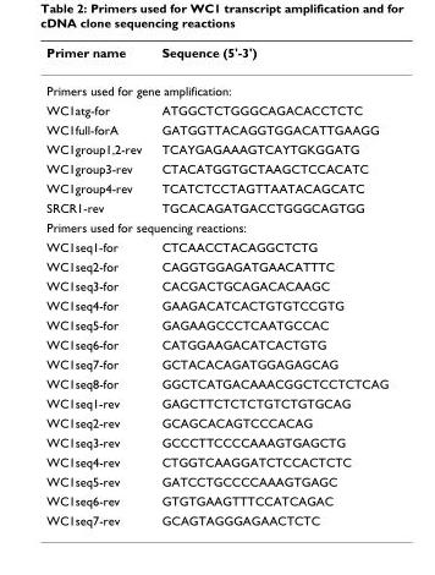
<table><thead><tr><td>Primer name</td><td>Sequence (5&#x27;-3&#x27;)</td></tr></thead><tbody><tr><td colspan="2">Primers used for gene amplification:</td></tr><tr><td>WC1atg-for</td><td>ATGGCTCTGGGCAGACACCTCTC</td></tr><tr><td>WC1full-forA</td><td>GATGGTTACAGGTGGACATTGAAGG</td></tr><tr><td>WC1group1,2-rev</td><td>TCAYGAGAAAGTCAYTGKGGATG</td></tr><tr><td>WC1group3-rev</td><td>CTACATGGTGCTAAGCTCCACATC</td></tr><tr><td>WC1group4-rev</td><td>TCATCTCCTAGTTAATACAGCATC</td></tr><tr><td>SRCR1-rev</td><td>TGCACAGATGACCTGGGCAGTGG</td></tr><tr><td colspan="2">Primers used for sequencing reactions:</td></tr><tr><td>WC1seq1-for</td><td>CTCAACCTACAGGCTCTG</td></tr><tr><td>WC1seq2-for</td><td>CAGGTGGAGATGAACATTTC</td></tr><tr><td>WC1seq3-for</td><td>CACGACTGCAGACACAAGC</td></tr><tr><td>WC1seq4-for</td><td>GAAGACATCACTGTGTCCGTG</td></tr><tr><td>WC1seq5-for</td><td>GAGAAGCCCTCAATGCCAC</td></tr><tr><td>WC1seq6-for</td><td>CATGGAAGACATCACTGTG</td></tr><tr><td>WC1seq7-for</td><td>GCTACACAGATGGAGAGCAG</td></tr><tr><td>WC1seq8-for</td><td>GGCTCATGACAAACGGCTCCTCTCAG</td></tr><tr><td>WC1seq1-rev</td><td>GAGCTTCTCTCTGTCTGTGCAG</td></tr><tr><td>WC1seq2-rev</td><td>GCAGCACAGTCCCACAG</td></tr><tr><td>WC1seq3-rev</td><td>GCCCTTCCCCAAAGTGAGCTG</td></tr><tr><td>WC1seq4-rev</td><td>CTGGTCAAGGATCTCCACTCTC</td></tr><tr><td>WC1seq5-rev</td><td>GATCCTGCCCCAAAGTGAGC</td></tr><tr><td>WC1seq6-rev</td><td>GTGTGAAGTTTCCATCAGAC</td></tr><tr><td>WC1seq7-rev</td><td>GCAGTAGGGAGAACTCTC</td></tr></tbody></table>